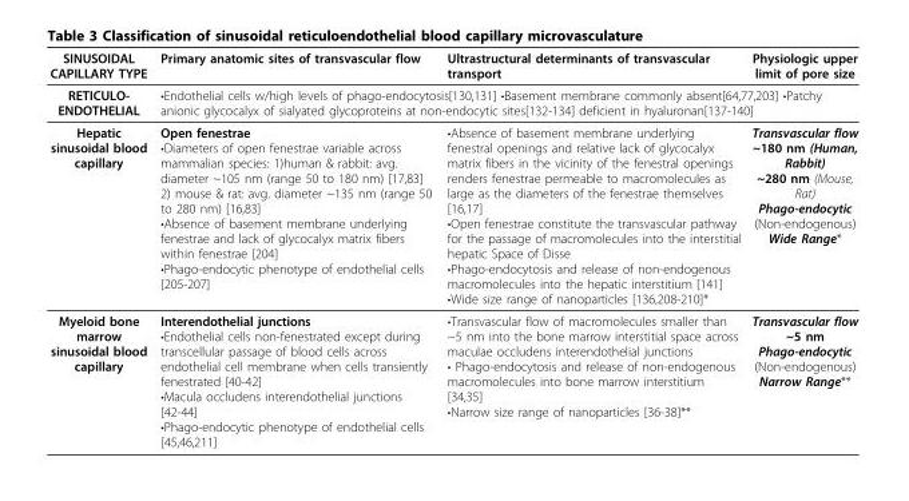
<table><thead><tr><td>SINUSOIDAL CAPILLARY TYPE</td><td>Primary anatomic sites of transvascular flow</td><td>Ultrastructural determinants of transvascular transport</td><td>Physiologic upper limit of pore size</td></tr></thead><tbody><tr><td>RETICULO- ENDOTHELIAL</td><td colspan="3">•Endothelial cells w/high levels of phago-endocytosis[130,131] •Basement membrane commonly absent[64,77,203] •Patchy anionic glycocalyx of sialyated glycoproteins at non-endocytic sites[132-134] deficient in hyaluronan[137-140]</td></tr><tr><td>Hepatic sinusoidal blood capillary</td><td>Open fenestrae •Diameters of open fenestrae variable across mammalian species: 1)human &amp; rabbit: avg. diameter ~105 nm (range 50 to 180 nm) [17,83] 2) mouse &amp; rat: avg. diameter ~135 nm (range 50 to 280 nm) [16,83] •Absence of basement membrane underlying fenestrae and lack of glycocalyx matrix fibers within fenestrae [204] •Phago-endocytic phenotype of endothelial cells [205-207]</td><td>•Absence of basement membrane underlying fenestral openings and relative lack of glycocalyx matrix fibers in the vicinity of the fenestral openings renders fenestrae permeable to macromolecules as large as the diameters of the fenestrae themselves [16,17] •Open fenestrae constitute the transvascular pathway for the passage of macromolecules into the interstitial hepatic Space of Disse •Phago-endocytosis and release of non-endogenous macromolecules into the hepatic interstitium [141] •Wide size range of nanoparticles [136,208-210]*</td><td>Transvascular flow ~180 nm (Human, Rabbit) ~280 nm (Mouse, Rat) Phago-endocytic (Non-endogenous) Wide Range*</td></tr><tr><td>Myeloid bone marrow sinusoidal blood capillary</td><td>Interendothelial junctions •Endothelial cells non-fenestrated except during transcellular passage of blood cells across endothelial cell membrane when cells transiently fenestrated [40-42] •Macula occludens interendothelial junctions [42-44] •Phago-endocytic phenotype of endothelial cells [45,46,211]</td><td>•Transvascular flow of macromolecules smaller than ~5 nm into the bone marrow interstitial space across maculae occludens interendothelial junctions • Phago-endocytosis and release of non-endogenous macromolecules into bone marrow interstitium [34,35] •Narrow size range of nanoparticles [36-38]**</td><td>Transvascular flow ~5 nm Phago-endocytic (Non-endogenous) Narrow Range**</td></tr></tbody></table>